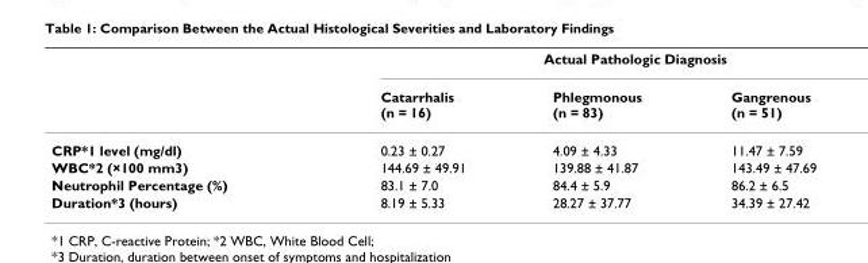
<table><thead><tr><td rowspan="2"></td><td colspan="3">Actual Pathologic Diagnosis</td></tr><tr><td>Catarrhalis (n = 16)</td><td>Phlegmonous (n = 83)</td><td>Gangrenous (n = 51)</td></tr></thead><tbody><tr><td>CRP*1 level (mg/dl)</td><td>0.23 ± 0.27</td><td>4.09 ± 4.33</td><td>11.47 ± 7.59</td></tr><tr><td>WBC*2 (×100 mm3)</td><td>144.69 ± 49.91</td><td>139.88 ± 41.87</td><td>143.49 ± 47.69</td></tr><tr><td>Neutrophil Percentage (%)</td><td>83.1 ± 7.0</td><td>84.4 ± 5.9</td><td>86.2 ± 6.5</td></tr><tr><td>Duration*3 (hours)</td><td>8.19 ± 5.33</td><td>28.27 ± 37.77</td><td>34.39 ± 27.42</td></tr></tbody></table>